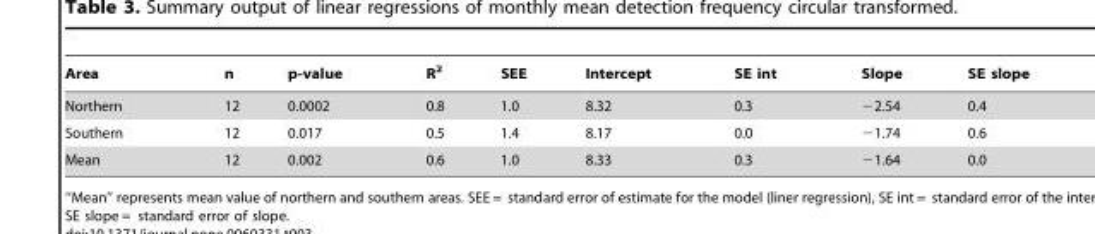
<table><thead><tr><td>Area</td><td>n</td><td>p-value</td><td>R<sup>2</sup></td><td>SEE</td><td>Intercept</td><td>SE int</td><td>Slope</td><td>SE slope</td></tr></thead><tbody><tr><td>Northern</td><td>12</td><td>0.0002</td><td>0.8</td><td>1.0</td><td>8.32</td><td>0.3</td><td>−2.54</td><td>0.4</td></tr><tr><td>Southern</td><td>12</td><td>0.017</td><td>0.5</td><td>1.4</td><td>8.17</td><td>0.0</td><td>−1.74</td><td>0.6</td></tr><tr><td>Mean</td><td>12</td><td>0.002</td><td>0.6</td><td>1.0</td><td>8.33</td><td>0.3</td><td>−1.64</td><td>0.0</td></tr></tbody></table>